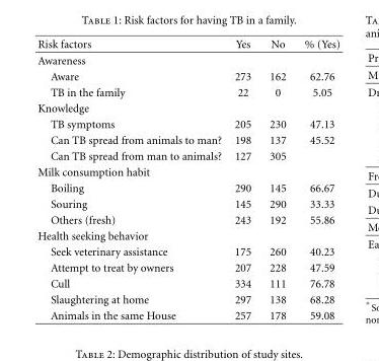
<table><thead><tr><td>Risk factors</td><td>Yes</td><td>No</td><td>% (Yes)</td></tr></thead><tbody><tr><td colspan="4">Awareness</td></tr><tr><td>Aware</td><td>273</td><td>162</td><td>62.76</td></tr><tr><td>TB in the family</td><td>22</td><td>0</td><td>5.05</td></tr><tr><td colspan="4">Knowledge</td></tr><tr><td>TB symptoms</td><td>205</td><td>230</td><td>47.13</td></tr><tr><td>Can TB spread from animals to man?</td><td>198</td><td>137</td><td>45.52</td></tr><tr><td>Can TB spread from man to animals?</td><td>127</td><td>305</td><td></td></tr><tr><td colspan="4">Milk consumption habit</td></tr><tr><td>Boiling</td><td>290</td><td>145</td><td>66.67</td></tr><tr><td>Souring</td><td>145</td><td>290</td><td>33.33</td></tr><tr><td>Others (fresh)</td><td>243</td><td>192</td><td>55.86</td></tr><tr><td colspan="4">Health seeking behavior</td></tr><tr><td>Seek veterinary assistance</td><td>175</td><td>260</td><td>40.23</td></tr><tr><td>Attempt to treat by owners</td><td>207</td><td>228</td><td>47.59</td></tr><tr><td>Cull</td><td>334</td><td>111</td><td>76.78</td></tr><tr><td>Slaughtering at home</td><td>297</td><td>138</td><td>68.28</td></tr><tr><td>Animals in the same House</td><td>257</td><td>178</td><td>59.08</td></tr></tbody></table>